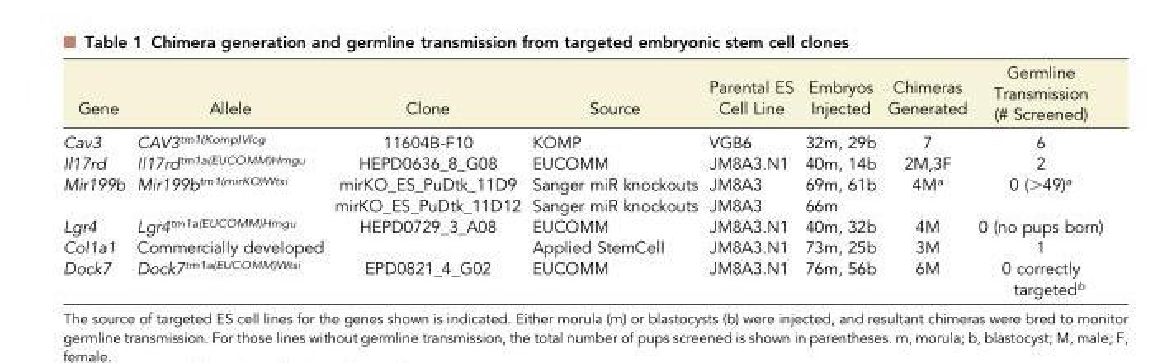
<table><thead><tr><td>Gene</td><td>Allele</td><td>Clone</td><td>Source</td><td>Parental ES Cell Line</td><td>Embryos Injected</td><td>Chimeras Generated</td><td>Germline Transmission (# Screened)</td></tr></thead><tbody><tr><td>Cav3</td><td>CAV3<sup>tm1(Komp)Vlcg</sup></td><td>11604B-F10</td><td>KOMP</td><td>VGB6</td><td>32m, 29b</td><td>7</td><td>6</td></tr><tr><td>Il17rd</td><td>Il17rd<sup>tm1a(EUCOMM)Hmgu</sup></td><td>HEPD0636_8_G08</td><td>EUCOMM</td><td>JM8A3.N1</td><td>40m, 14b</td><td>2M,3F</td><td>2</td></tr><tr><td rowspan="2">Mir199b</td><td>Mir199b<sup>tm1(mirKO)Wtsi</sup></td><td>mirKO_ES_PuDtk_11D9</td><td>Sanger miR knockouts</td><td>JM8A3</td><td>69m, 61b</td><td rowspan="2">4M<sup>a</sup></td><td rowspan="2">0 (&gt;49)<sup>a</sup></td></tr><tr><td></td><td>mirKO_ES_PuDtk_11D12</td><td>Sanger miR knockouts</td><td>JM8A3</td><td>66m</td></tr><tr><td>Lgr4</td><td>Lgr4<sup>tm1a(EUCOMM)Hmgu</sup></td><td>HEPD0729_3_A08</td><td>EUCOMM</td><td>JM8A3.N1</td><td>40m, 32b</td><td>4M</td><td>0 (no pups born)</td></tr><tr><td>Col1a1</td><td>Commercially developed</td><td></td><td>Applied StemCell</td><td>JM8A3.N1</td><td>73m, 25b</td><td>3M</td><td>1</td></tr><tr><td>Dock7</td><td>Dock7<sup>tm1a(EUCOMM)Wtsi</sup></td><td>EPD0821_4_G02</td><td>EUCOMM</td><td>JM8A3.N1</td><td>76m, 56b</td><td>6M</td><td>0 correctly targeted<sup>b</sup></td></tr></tbody></table>